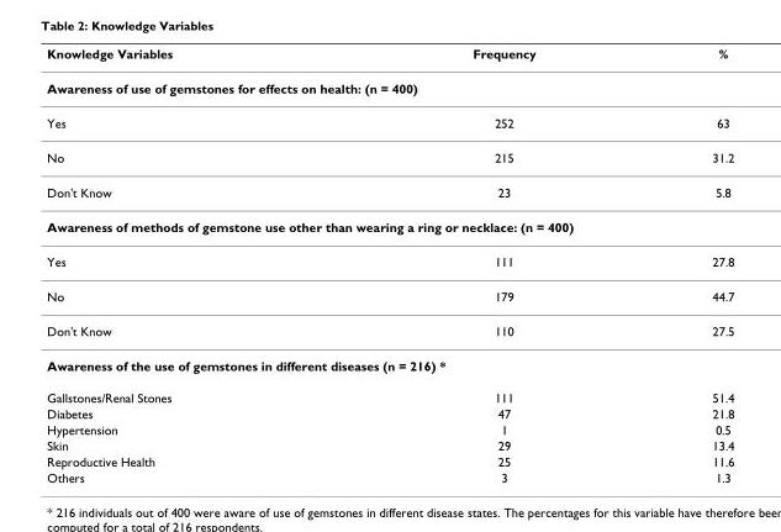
<table><thead><tr><td>Knowledge Variables</td><td>Frequency</td><td>%</td></tr></thead><tbody><tr><td colspan="3">Awareness of use of gemstones for effects on health: (n = 400)</td></tr><tr><td>Yes</td><td>252</td><td>63</td></tr><tr><td>No</td><td>215</td><td>31.2</td></tr><tr><td>Don&#x27;t Know</td><td>23</td><td>5.8</td></tr><tr><td colspan="3">Awareness of methods of gemstone use other than wearing a ring or necklace: (n = 400)</td></tr><tr><td>Yes</td><td>111</td><td>27.8</td></tr><tr><td>No</td><td>179</td><td>44.7</td></tr><tr><td>Don&#x27;t Know</td><td>110</td><td>27.5</td></tr><tr><td colspan="3">Awareness of the use of gemstones in different diseases (n = 216) *</td></tr><tr><td>Gallstones/Renal Stones</td><td>111</td><td>51.4</td></tr><tr><td>Diabetes</td><td>47</td><td>21.8</td></tr><tr><td>Hypertension</td><td>1</td><td>0.5</td></tr><tr><td>Skin</td><td>29</td><td>13.4</td></tr><tr><td>Reproductive Health</td><td>25</td><td>11.6</td></tr><tr><td>Others</td><td>3</td><td>1.3</td></tr></tbody></table>